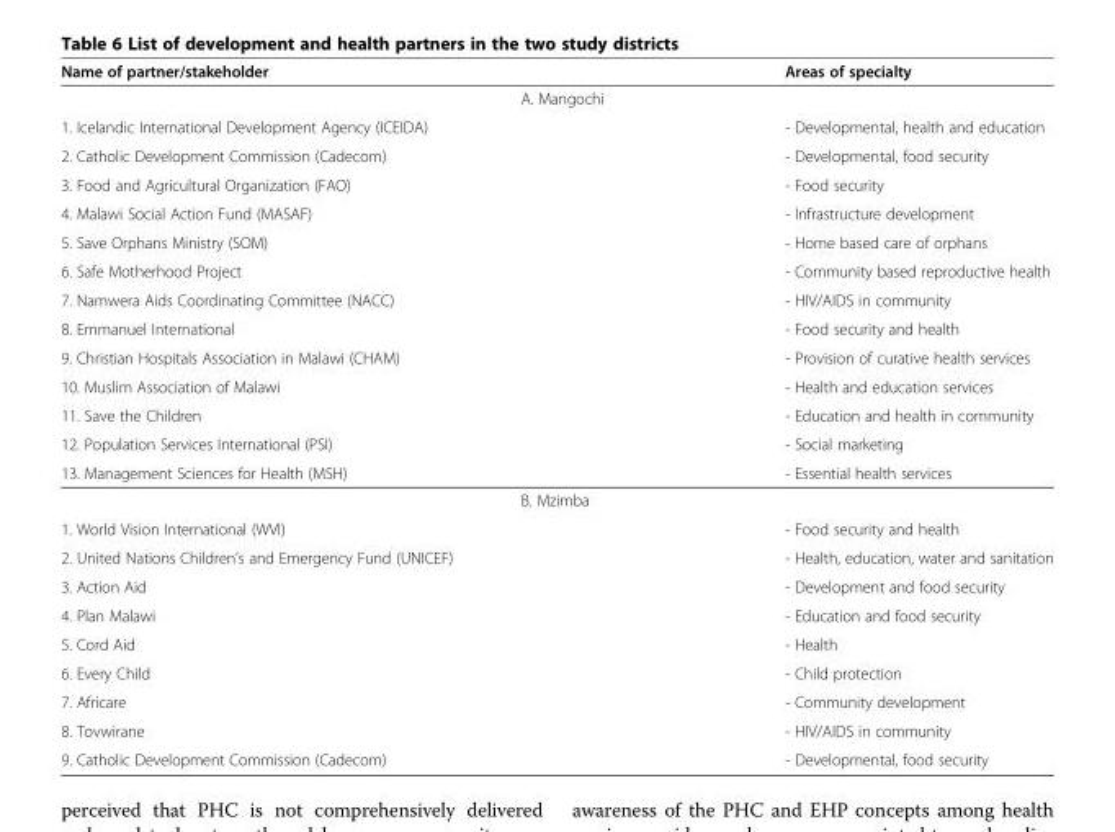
<table><thead><tr><td>Name of partner/stakeholder</td><td></td><td>Areas of specialty</td></tr></thead><tbody><tr><td></td><td>A. Mangochi</td><td></td></tr><tr><td>1. Icelandic International Development Agency (ICEIDA)</td><td></td><td>- Developmental, health and education</td></tr><tr><td>2. Catholic Development Commission (Cadecom)</td><td></td><td>- Developmental, food security</td></tr><tr><td>3. Food and Agricultural Organization (FAO)</td><td></td><td>- Food security</td></tr><tr><td>4. Malawi Social Action Fund (MASAF)</td><td></td><td>- Infrastructure development</td></tr><tr><td>5. Save Orphans Ministry (SOM)</td><td></td><td>- Home based care of orphans</td></tr><tr><td>6. Safe Motherhood Project</td><td></td><td>- Community based reproductive health</td></tr><tr><td>7. Namwera Aids Coordinating Committee (NACC)</td><td></td><td>- HIV/AIDS in community</td></tr><tr><td>8. Emmanuel International</td><td></td><td>- Food security and health</td></tr><tr><td>9. Christian Hospitals Association in Malawi (CHAM)</td><td></td><td>- Provision of curative health services</td></tr><tr><td>10. Muslim Association of Malawi</td><td></td><td>- Health and education services</td></tr><tr><td>11. Save the Children</td><td></td><td>- Education and health in community</td></tr><tr><td>12. Population Services International (PSI)</td><td></td><td>- Social marketing</td></tr><tr><td rowspan="2">13. Management Sciences for Health (MSH)</td><td></td><td>- Essential health services</td></tr><tr><td>B. Mzimba</td><td></td></tr><tr><td>1. World Vision International (WVI)</td><td></td><td>- Food security and health</td></tr><tr><td>2. United Nations Children’s and Emergency Fund (UNICEF)</td><td></td><td>- Health, education, water and sanitation</td></tr><tr><td>3. Action Aid</td><td></td><td>- Development and food security</td></tr><tr><td>4. Plan Malawi</td><td></td><td>- Education and food security</td></tr><tr><td>5. Cord Aid</td><td></td><td>- Health</td></tr><tr><td>6. Every Child</td><td></td><td>- Child protection</td></tr><tr><td>7. Africare</td><td></td><td>- Community development</td></tr><tr><td>8. Tovwirane</td><td></td><td>- HIV/AIDS in community</td></tr><tr><td>9. Catholic Development Commission (Cadecom)</td><td></td><td>- Developmental, food security</td></tr></tbody></table>